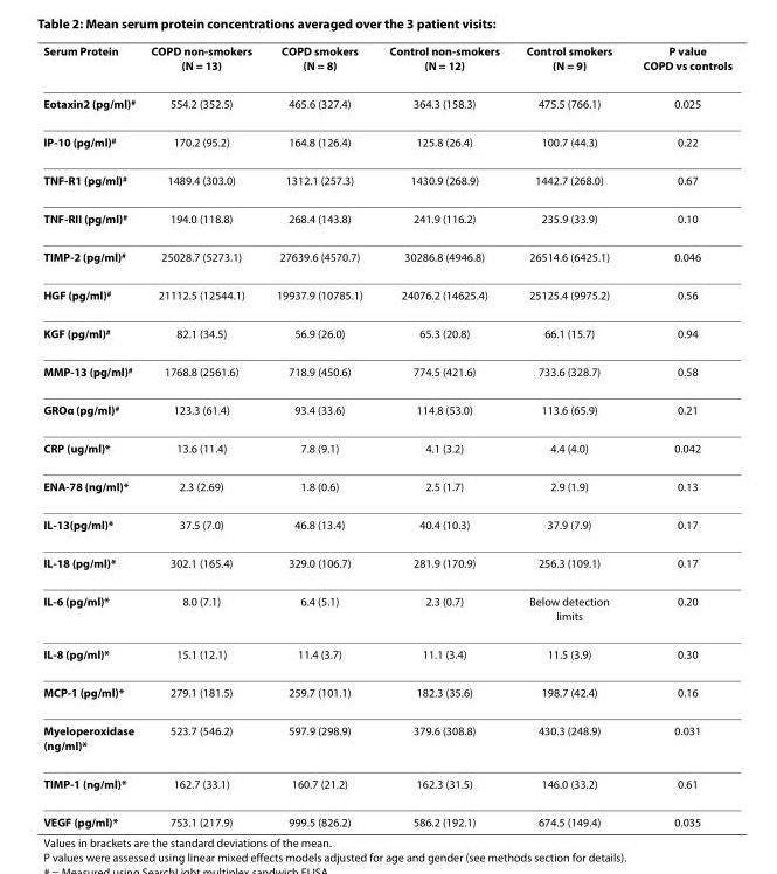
<table><thead><tr><td>Serum Protein</td><td>COPD non-smokers (N = 13)</td><td>COPD smokers (N = 8)</td><td>Control non-smokers (N = 12)</td><td>Control smokers (N = 9)</td><td>P value COPD vs controls</td></tr></thead><tbody><tr><td>Eotaxin2 (pg/ml)<sup>#</sup></td><td>554.2 (352.5)</td><td>465.6 (327.4)</td><td>364.3 (158.3)</td><td>475.5 (766.1)</td><td>0.025</td></tr><tr><td>IP-10 (pg/ml)<sup>#</sup></td><td>170.2 (95.2)</td><td>164.8 (126.4)</td><td>125.8 (26.4)</td><td>100.7 (44.3)</td><td>0.22</td></tr><tr><td>TNF-R1 (pg/ml)<sup>#</sup></td><td>1489.4 (303.0)</td><td>1312.1 (257.3)</td><td>1430.9 (268.9)</td><td>1442.7 (268.0)</td><td>0.67</td></tr><tr><td>TNF-RII (pg/ml)<sup>#</sup></td><td>194.0 (118.8)</td><td>268.4 (143.8)</td><td>241.9 (116.2)</td><td>235.9 (33.9)</td><td>0.10</td></tr><tr><td>TIMP-2 (pg/ml)<sup>#</sup></td><td>25028.7 (5273.1)</td><td>27639.6 (4570.7)</td><td>30286.8 (4946.8)</td><td>26514.6 (6425.1)</td><td>0.046</td></tr><tr><td>HGF (pg/ml)<sup>#</sup></td><td>21112.5 (12544.1)</td><td>19937.9 (10785.1)</td><td>24076.2 (14625.4)</td><td>25125.4 (9975.2)</td><td>0.56</td></tr><tr><td>KGF (pg/ml)<sup>#</sup></td><td>82.1 (34.5)</td><td>56.9 (26.0)</td><td>65.3 (20.8)</td><td>66.1 (15.7)</td><td>0.94</td></tr><tr><td>MMP-13 (pg/ml)<sup>#</sup></td><td>1768.8 (2561.6)</td><td>718.9 (450.6)</td><td>774.5 (421.6)</td><td>733.6 (328.7)</td><td>0.58</td></tr><tr><td>GROα (pg/ml)<sup>#</sup></td><td>123.3 (61.4)</td><td>93.4 (33.6)</td><td>114.8 (53.0)</td><td>113.6 (65.9)</td><td>0.21</td></tr><tr><td>CRP (ug/ml)*</td><td>13.6 (11.4)</td><td>7.8 (9.1)</td><td>4.1 (3.2)</td><td>4.4 (4.0)</td><td>0.042</td></tr><tr><td>ENA-78 (ng/ml)*</td><td>2.3 (2.69)</td><td>1.8 (0.6)</td><td>2.5 (1.7)</td><td>2.9 (1.9)</td><td>0.13</td></tr><tr><td>IL-13(pg/ml)*</td><td>37.5 (7.0)</td><td>46.8 (13.4)</td><td>40.4 (10.3)</td><td>37.9 (7.9)</td><td>0.17</td></tr><tr><td>IL-18 (pg/ml)*</td><td>302.1 (165.4)</td><td>329.0 (106.7)</td><td>281.9 (170.9)</td><td>256.3 (109.1)</td><td>0.17</td></tr><tr><td>IL-6 (pg/ml)*</td><td>8.0 (7.1)</td><td>6.4 (5.1)</td><td>2.3 (0.7)</td><td>Below detection limits</td><td>0.20</td></tr><tr><td>IL-8 (pg/ml)*</td><td>15.1 (12.1)</td><td>11.4 (3.7)</td><td>11.1 (3.4)</td><td>11.5 (3.9)</td><td>0.30</td></tr><tr><td>MCP-1 (pg/ml)*</td><td>279.1 (181.5)</td><td>259.7 (101.1)</td><td>182.3 (35.6)</td><td>198.7 (42.4)</td><td>0.16</td></tr><tr><td>Myeloperoxidase (ng/ml)*</td><td>523.7 (546.2)</td><td>597.9 (298.9)</td><td>379.6 (308.8)</td><td>430.3 (248.9)</td><td>0.031</td></tr><tr><td>TIMP-1 (ng/ml)*</td><td>162.7 (33.1)</td><td>160.7 (21.2)</td><td>162.3 (31.5)</td><td>146.0 (33.2)</td><td>0.61</td></tr><tr><td>VEGF (pg/ml)*</td><td>753.1 (217.9)</td><td>999.5 (826.2)</td><td>586.2 (192.1)</td><td>674.5 (149.4)</td><td>0.035</td></tr></tbody></table>